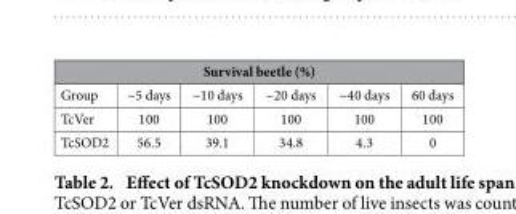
<table><thead><tr><td colspan="6">Survival beetle (%)</td></tr><tr><td>Group</td><td>~5 days</td><td>~10 days</td><td>~20 days</td><td>~40 days</td><td>60 days</td></tr></thead><tbody><tr><td>TcVer</td><td>100</td><td>100</td><td>100</td><td>100</td><td>100</td></tr><tr><td>TcSOD2</td><td>56.5</td><td>39.1</td><td>34.8</td><td>4.3</td><td>0</td></tr></tbody></table>